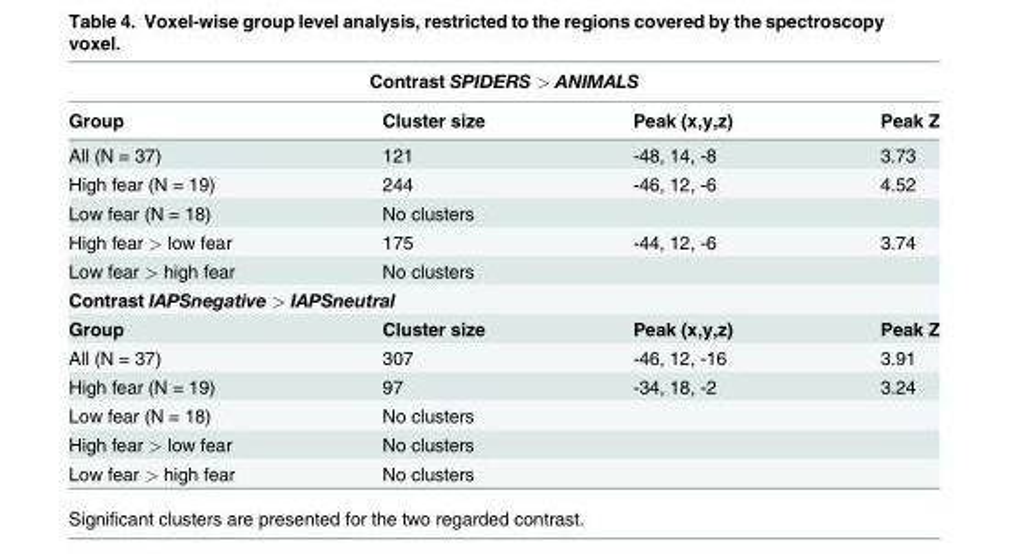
<table><thead><tr><td colspan="4">Contrast SPIDERS &gt; ANIMALS</td></tr><tr><td>Group</td><td>Cluster size</td><td>Peak (x,y,z)</td><td>Peak Z</td></tr></thead><tbody><tr><td>All (N = 37)</td><td>121</td><td>-48, 14, -8</td><td>3.73</td></tr><tr><td>High fear (N = 19)</td><td>244</td><td>-46, 12, -6</td><td>4.52</td></tr><tr><td>Low fear (N = 18)</td><td colspan="3">No clusters</td></tr><tr><td>High fear &gt; low fear</td><td>175</td><td>-44, 12, -6</td><td>3.74</td></tr><tr><td>Low fear &gt; high fear</td><td colspan="3">No clusters</td></tr><tr><td colspan="4">Contrast IAPSnegative &gt; IAPSneutral</td></tr><tr><td>Group</td><td>Cluster size</td><td>Peak (x,y,z)</td><td>Peak Z</td></tr><tr><td>All (N = 37)</td><td>307</td><td>-46, 12, -16</td><td>3.91</td></tr><tr><td>High fear (N = 19)</td><td>97</td><td>-34, 18, -2</td><td>3.24</td></tr><tr><td>Low fear (N = 18)</td><td colspan="3">No clusters</td></tr><tr><td>High fear &gt; low fear</td><td colspan="3">No clusters</td></tr><tr><td>Low fear &gt; high fear</td><td colspan="3">No clusters</td></tr></tbody></table>